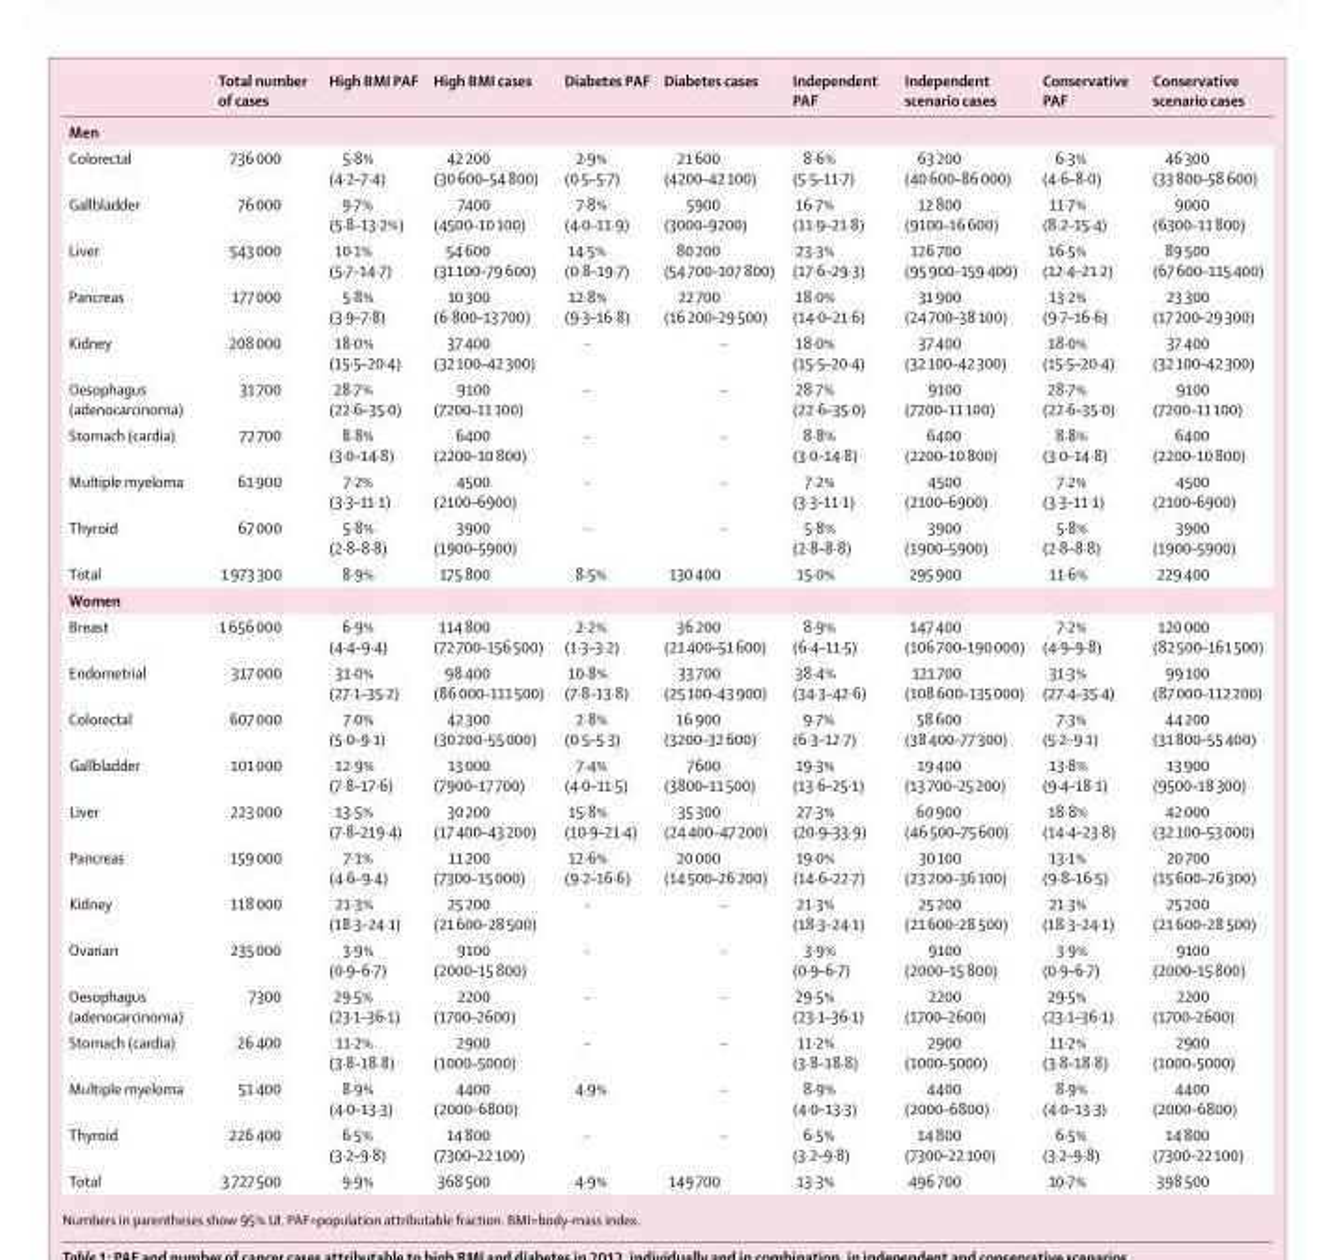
<table><thead><tr><td></td><td>Total number of cases</td><td>High BMI PAF</td><td>High BMI cases</td><td>Diabetes PAF</td><td>Diabetes cases</td><td>Independent PAF</td><td>Independent scenario cases</td><td>Conservative PAF</td><td>Conservative scenario cases</td></tr></thead><tbody><tr><td colspan="10">Men</td></tr><tr><td>Colorectal</td><td>736 000</td><td>5·8% (4·2–7·4)</td><td>42 200 (30 600–54 800)</td><td>2·9% (0·5–5·7)</td><td>21 600 (4200–42 100)</td><td>8·6% (5·5–11·7)</td><td>63 200 (40 600–86 000)</td><td>6·3% (4·6–8·0)</td><td>46 300 (33 800–58 600)</td></tr><tr><td>Gallbladder</td><td>76 000</td><td>9·7% (5·8–13·2%)</td><td>7400 (4500–10 100)</td><td>7·8% (4·0–11·9)</td><td>5900 (3000–9200)</td><td>16·7% (11·9–21·8)</td><td>12 800 (9100–16 600)</td><td>11·7% (8·2–15·4)</td><td>9000 (6300–11 800)</td></tr><tr><td>Liver</td><td>543 000</td><td>10·1% (5·7–14·7)</td><td>54 600 (31 100–79 600)</td><td>14·5% (0·8–19·7)</td><td>80 200 (54 700–107 800)</td><td>23·3% (17·6–29·3)</td><td>126 700 (95 900–159 400)</td><td>16·5% (12·4–21·2)</td><td>89 500 (67 600–115 400)</td></tr><tr><td>Pancreas</td><td>177 000</td><td>5·8% (3·9–7·8)</td><td>10 300 (6·800–13 700)</td><td>12·8% (9·3–16·8)</td><td>22 700 (16 200–29 500)</td><td>18·0% (14·0–21·6)</td><td>31 900 (24 700–38 100)</td><td>13·2% (9·7–16·6)</td><td>23 300 (17 200–29 300)</td></tr><tr><td>Kidney</td><td>208 000</td><td>18·0% (15·5–20·4)</td><td>37 400 (32 100–42 300)</td><td>··</td><td>··</td><td>18·0% (15·5–20·4)</td><td>37 400 (32 100–42 300)</td><td>18·0% (15·5–20·4)</td><td>37 400 (32 100–42 300)</td></tr><tr><td>Oesophagus (adenocarcinoma)</td><td>31 700</td><td>28·7% (22·6–35·0)</td><td>9100 (7200–11 100)</td><td>··</td><td>··</td><td>28·7% (22·6–35·0)</td><td>9100 (7200–11 100)</td><td>28·7% (22·6–35·0)</td><td>9100 (7200–11 100)</td></tr><tr><td>Stomach (cardia)</td><td>72 700</td><td>8·8% (3·0–14·8)</td><td>6400 (2200–10 800)</td><td>··</td><td>··</td><td>8·8% (3·0–14·8)</td><td>6400 (2200–10 800)</td><td>8·8% (3·0–14·8)</td><td>6400 (2200–10 800)</td></tr><tr><td>Multiple myeloma</td><td>61 900</td><td>7·2% (3·3–11·1)</td><td>4500 (2100–6900)</td><td>··</td><td>··</td><td>7·2% (3·3–11·1)</td><td>4500 (2100–6900)</td><td>7·2% (3·3–11·1)</td><td>4500 (2100–6900)</td></tr><tr><td>Thyroid</td><td>67 000</td><td>5·8% (2·8–8·8)</td><td>3900 (1900–5900)</td><td>··</td><td>··</td><td>5·8% (2·8–8·8)</td><td>3900 (1900–5900)</td><td>5·8% (2·8–8·8)</td><td>3900 (1900–5900)</td></tr><tr><td>Total</td><td>1 973 300</td><td>8·9%</td><td>175 800</td><td>8·5%</td><td>130 400</td><td>15·0%</td><td>295 900</td><td>11·6%</td><td>229 400</td></tr><tr><td colspan="10">Women</td></tr><tr><td>Breast</td><td>1 656 000</td><td>6·9% (4·4–9·4)</td><td>114 800 (72 700–156 500)</td><td>2·2% (1·3–3·2)</td><td>36 200 (21 400–51 600)</td><td>8·9% (6·4–11·5)</td><td>147 400 (106 700–190 000)</td><td>7·2% (4·9–9·8)</td><td>120 000 (82 500–161 500)</td></tr><tr><td>Endometrial</td><td>317 000</td><td>31·0% (27·1–35·2)</td><td>98 400 (86 000–111 500)</td><td>10·8% (7·8–13·8)</td><td>33 700 (25 100–43 900)</td><td>38·4% (34·3–42·6)</td><td>121 700 (108 600–135 000)</td><td>31·3% (27·4–35·4)</td><td>99 100 (87 000–112 200)</td></tr><tr><td>Colorectal</td><td>607 000</td><td>7·0% (5·0–9·1)</td><td>42 300 (30 200–55 000)</td><td>2·8% (0·5–5·3)</td><td>16 900 (3200–32 600)</td><td>9·7% (6·3–12·7)</td><td>58 600 (38 400–77 300)</td><td>7·3% (5·2–9·1)</td><td>44 200 (31 800–55 400)</td></tr><tr><td>Gallbladder</td><td>101 000</td><td>12·9% (7·8–17·6)</td><td>13 000 (7900–17 700)</td><td>7·4% (4·0–11·5)</td><td>7600 (3800–11 500)</td><td>19·3% (13·6–25·1)</td><td>19 400 (13 700–25 200)</td><td>13·8% (9·4–18·1)</td><td>13 900 (9500–18 300)</td></tr><tr><td>Liver</td><td>223 000</td><td>13·5% (7·8–219·4)</td><td>30 200 (17 400–43 200)</td><td>15·8% (10·9–21·4)</td><td>35 300 (24 400–47 200)</td><td>27·3% (20·9–33·9)</td><td>60 900 (46 500–75 600)</td><td>18·8% (14·4–23·8)</td><td>42 000 (32 100–53 000)</td></tr><tr><td>Pancreas</td><td>159 000</td><td>7·1% (4·6–9·4)</td><td>11 200 (7300–15 000)</td><td>12·6% (9·2–16·6)</td><td>20 000 (14 500–26 200)</td><td>19·0% (14·6–22·7)</td><td>30 100 (23 200–36 100)</td><td>13·1% (9·8–16·5)</td><td>20 700 (15 600–26 300)</td></tr><tr><td>Kidney</td><td>118 000</td><td>21·3% (18·3–24·1)</td><td>25 200 (21 600–28 500)</td><td>··</td><td>··</td><td>21·3% (18·3–24·1)</td><td>25 200 (21 600–28 500)</td><td>21·3% (18·3–24·1)</td><td>25 200 (21 600–28 500)</td></tr><tr><td>Ovarian</td><td>235 000</td><td>3·9% (0·9–6·7)</td><td>9100 (2000–15 800)</td><td>··</td><td>··</td><td>3·9% (0·9–6·7)</td><td>9100 (2000–15 800)</td><td>3·9% (0·9–6·7)</td><td>9100 (2000–15 800)</td></tr><tr><td>Oesophagus (adenocarcinoma)</td><td>7300</td><td>29·5% (23·1–36·1)</td><td>2200 (1700–2600)</td><td>··</td><td>··</td><td>29·5% (23·1–36·1)</td><td>2200 (1700–2600)</td><td>29·5% (23·1–36·1)</td><td>2200 (1700–2600)</td></tr><tr><td>Stomach (cardia)</td><td>26 400</td><td>11·2% (3·8–18·8)</td><td>2900 (1000–5000)</td><td>··</td><td>··</td><td>11·2% (3·8–18·8)</td><td>2900 (1000–5000)</td><td>11·2% (3·8–18·8)</td><td>2900 (1000–5000)</td></tr><tr><td>Multiple myeloma</td><td>51 400</td><td>8·9% (4·0–13·3)</td><td>4400 (2000–6800)</td><td>4·9%</td><td>··</td><td>8·9% (4·0–13·3)</td><td>4400 (2000–6800)</td><td>8·9% (4·0–13·3)</td><td>4400 (2000–6800)</td></tr><tr><td>Thyroid</td><td>226 400</td><td>6·5% (3·2–9·8)</td><td>14 800 (7300–22 100)</td><td>··</td><td>··</td><td>6·5% (3·2–9·8)</td><td>14 800 (7300–22 100)</td><td>6·5% (3·2–9·8)</td><td>14 800 (7300–22 100)</td></tr><tr><td>Total</td><td>3 727 500</td><td>9·9%</td><td>368 500</td><td>4·9%</td><td>149 700</td><td>13·3%</td><td>496 700</td><td>10·7%</td><td>398 500</td></tr></tbody></table>